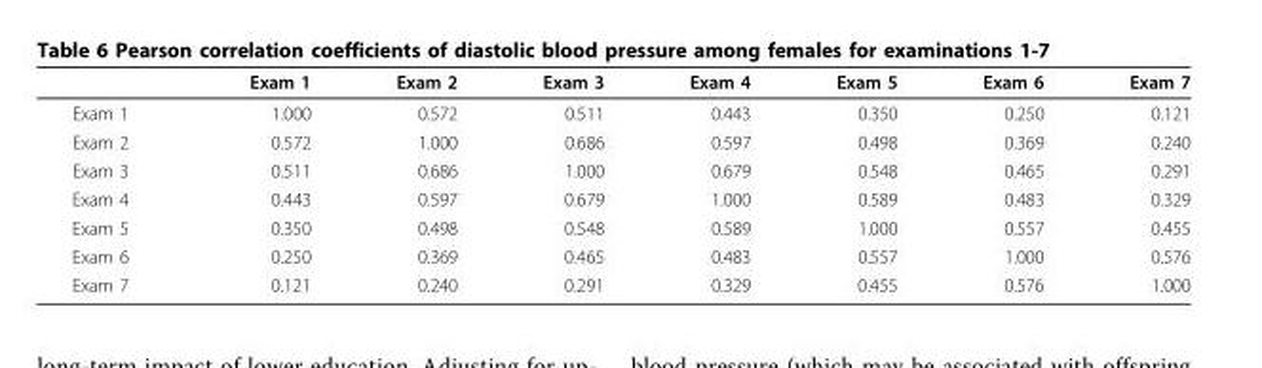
<table><thead><tr><td></td><td>Exam 1</td><td>Exam 2</td><td>Exam 3</td><td>Exam 4</td><td>Exam 5</td><td>Exam 6</td><td>Exam 7</td></tr></thead><tbody><tr><td>Exam 1</td><td>1.000</td><td>0.572</td><td>0.511</td><td>0.443</td><td>0.350</td><td>0.250</td><td>0.121</td></tr><tr><td>Exam 2</td><td>0.572</td><td>1.000</td><td>0.686</td><td>0.597</td><td>0.498</td><td>0.369</td><td>0.240</td></tr><tr><td>Exam 3</td><td>0.511</td><td>0.686</td><td>1.000</td><td>0.679</td><td>0.548</td><td>0.465</td><td>0.291</td></tr><tr><td>Exam 4</td><td>0.443</td><td>0.597</td><td>0.679</td><td>1.000</td><td>0.589</td><td>0.483</td><td>0.329</td></tr><tr><td>Exam 5</td><td>0.350</td><td>0.498</td><td>0.548</td><td>0.589</td><td>1.000</td><td>0.557</td><td>0.455</td></tr><tr><td>Exam 6</td><td>0.250</td><td>0.369</td><td>0.465</td><td>0.483</td><td>0.557</td><td>1.000</td><td>0.576</td></tr><tr><td>Exam 7</td><td>0.121</td><td>0.240</td><td>0.291</td><td>0.329</td><td>0.455</td><td>0.576</td><td>1.000</td></tr></tbody></table>